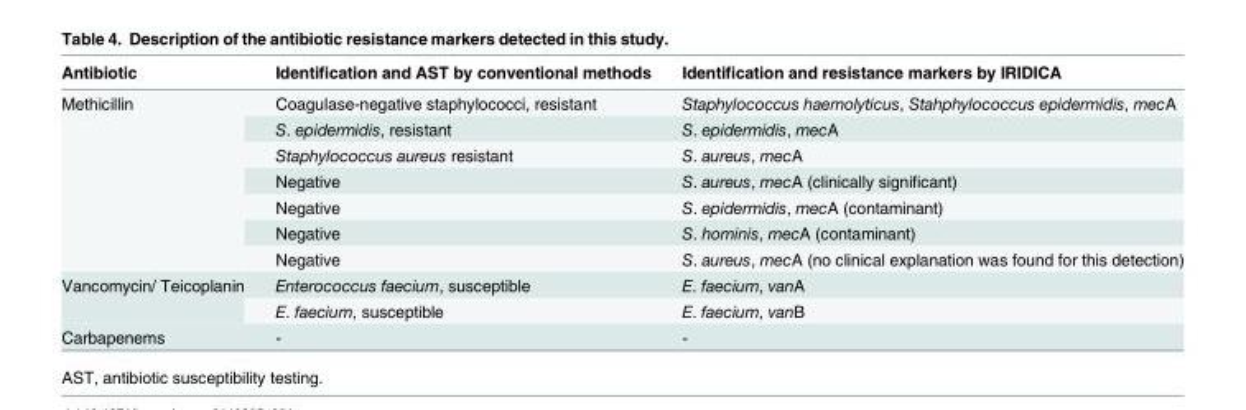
<table><thead><tr><td>Antibiotic</td><td>Identification and AST by conventional methods</td><td>Identification and resistance markers by IRIDICA</td></tr></thead><tbody><tr><td rowspan="7">Methicillin</td><td>Coagulase-negative staphylococci, resistant</td><td>Staphylococcus haemolyticus, Stahphylococcus epidermidis, mecA</td></tr><tr><td>S. epidermidis, resistant</td><td>S. epidermidis, mecA</td></tr><tr><td>Staphylococcus aureus resistant</td><td>S. aureus, mecA</td></tr><tr><td>Negative</td><td>S. aureus, mecA (clinically significant)</td></tr><tr><td>Negative</td><td>S. epidermidis, mecA (contaminant)</td></tr><tr><td>Negative</td><td>S. hominis, mecA (contaminant)</td></tr><tr><td>Negative</td><td>S. aureus, mecA (no clinical explanation was found for this detection)</td></tr><tr><td rowspan="2">Vancomycin/ Teicoplanin</td><td>Enterococcus faecium, susceptible</td><td>E. faecium, vanA</td></tr><tr><td>E. faecium, susceptible</td><td>E. faecium, vanB</td></tr><tr><td>Carbapenems</td><td>-</td><td>-</td></tr></tbody></table>